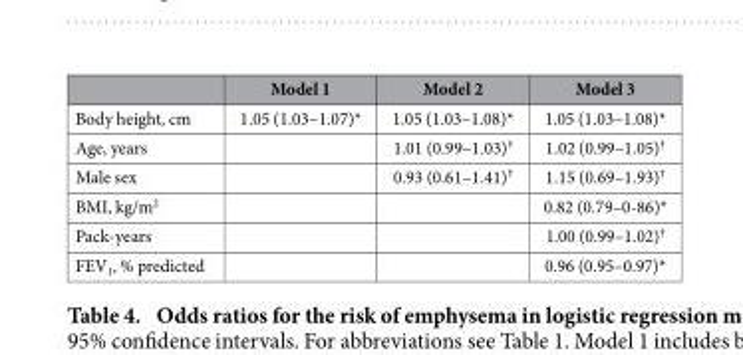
<table><thead><tr><td></td><td>Model 1</td><td>Model 2</td><td>Model 3</td></tr></thead><tbody><tr><td>Body height, cm</td><td>1.05 (1.03–1.07)*</td><td>1.05 (1.03–1.08)*</td><td>1.05 (1.03–1.08)*</td></tr><tr><td>Age, years</td><td></td><td>1.01 (0.99–1.03)<sup>†</sup></td><td>1.02 (0.99–1.05)<sup>†</sup></td></tr><tr><td>Male sex</td><td></td><td>0.93 (0.61–1.41)<sup>†</sup></td><td>1.15 (0.69–1.93)<sup>†</sup></td></tr><tr><td>BMI, kg/m<sup>2</sup></td><td></td><td></td><td>0.82 (0.79–0-86)*</td></tr><tr><td>Pack-years</td><td></td><td></td><td>1.00 (0.99–1.02)<sup>†</sup></td></tr><tr><td>FEV<sub>1</sub>, % predicted</td><td></td><td></td><td>0.96 (0.95–0.97)*</td></tr></tbody></table>